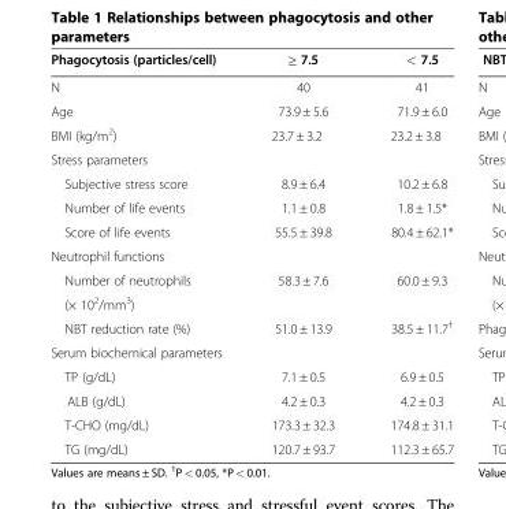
<table><thead><tr><td>Phagocytosis (particles/cell)</td><td>≥ 7.5</td><td>&lt; 7.5</td></tr></thead><tbody><tr><td>N</td><td>40</td><td>41</td></tr><tr><td>Age</td><td>73.9 ± 5.6</td><td>71.9 ± 6.0</td></tr><tr><td>BMI (kg/m<sup>2</sup>)</td><td>23.7 ± 3.2</td><td>23.2 ± 3.8</td></tr><tr><td colspan="3">Stress parameters</td></tr><tr><td>Subjective stress score</td><td>8.9 ± 6.4</td><td>10.2 ± 6.8</td></tr><tr><td>Number of life events</td><td>1.1 ± 0.8</td><td>1.8 ± 1.5*</td></tr><tr><td>Score of life events</td><td>55.5 ± 39.8</td><td>80.4 ± 62.1*</td></tr><tr><td colspan="3">Neutrophil functions</td></tr><tr><td>Number of neutrophils</td><td>58.3 ± 7.6</td><td>60.0 ± 9.3</td></tr><tr><td colspan="3">(× 10<sup>2</sup>/mm<sup>3</sup>)</td></tr><tr><td>NBT reduction rate (%)</td><td>51.0 ± 13.9</td><td>38.5 ± 11.7<sup>†</sup></td></tr><tr><td colspan="3">Serum biochemical parameters</td></tr><tr><td>TP (g/dL)</td><td>7.1 ± 0.5</td><td>6.9 ± 0.5</td></tr><tr><td>ALB (g/dL)</td><td>4.2 ± 0.3</td><td>4.2 ± 0.3</td></tr><tr><td>T-CHO (mg/dL)</td><td>173.3 ± 32.3</td><td>174.8 ± 31.1</td></tr><tr><td>TG (mg/dL)</td><td>120.7 ± 93.7</td><td>112.3 ± 65.7</td></tr></tbody></table>